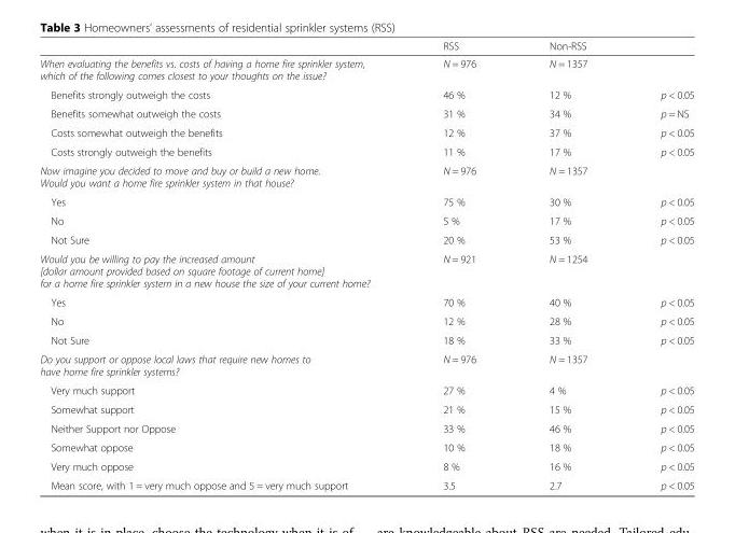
<table><thead><tr><td></td><td>RSS</td><td>Non-RSS</td><td></td></tr></thead><tbody><tr><td>When evaluating the benefits vs. costs of having a home fire sprinkler system, which of the following comes closest to your thoughts on the issue?</td><td>N = 976</td><td>N = 1357</td><td></td></tr><tr><td>Benefits strongly outweigh the costs</td><td>46 %</td><td>12 %</td><td>p &lt; 0.05</td></tr><tr><td>Benefits somewhat outweigh the costs</td><td>31 %</td><td>34 %</td><td>p = NS</td></tr><tr><td>Costs somewhat outweigh the benefits</td><td>12 %</td><td>37 %</td><td>p &lt; 0.05</td></tr><tr><td>Costs strongly outweigh the benefits</td><td>11 %</td><td>17 %</td><td>p &lt; 0.05</td></tr><tr><td>Now imagine you decided to move and buy or build a new home. Would you want a home fire sprinkler system in that house?</td><td>N = 976</td><td>N = 1357</td><td></td></tr><tr><td>Yes</td><td>75 %</td><td>30 %</td><td>p &lt; 0.05</td></tr><tr><td>No</td><td>5 %</td><td>17 %</td><td>p &lt; 0.05</td></tr><tr><td>Not Sure</td><td>20 %</td><td>53 %</td><td>p &lt; 0.05</td></tr><tr><td>Would you be willing to pay the increased amount [dollar amount provided based on square footage of current home] for a home fire sprinkler system in a new house the size of your current home?</td><td>N = 921</td><td>N = 1254</td><td></td></tr><tr><td>Yes</td><td>70 %</td><td>40 %</td><td>p &lt; 0.05</td></tr><tr><td>No</td><td>12 %</td><td>28 %</td><td>p &lt; 0.05</td></tr><tr><td>Not Sure</td><td>18 %</td><td>33 %</td><td>p &lt; 0.05</td></tr><tr><td>Do you support or oppose local laws that require new homes to have home fire sprinkler systems?</td><td>N = 976</td><td>N = 1357</td><td></td></tr><tr><td>Very much support</td><td>27 %</td><td>4 %</td><td>p &lt; 0.05</td></tr><tr><td>Somewhat support</td><td>21 %</td><td>15 %</td><td>p &lt; 0.05</td></tr><tr><td>Neither Support nor Oppose</td><td>33 %</td><td>46 %</td><td>p &lt; 0.05</td></tr><tr><td>Somewhat oppose</td><td>10 %</td><td>18 %</td><td>p &lt; 0.05</td></tr><tr><td>Very much oppose</td><td>8 %</td><td>16 %</td><td>p &lt; 0.05</td></tr><tr><td>Mean score, with 1 = very much oppose and 5 = very much support</td><td>3.5</td><td>2.7</td><td>p &lt; 0.05</td></tr></tbody></table>